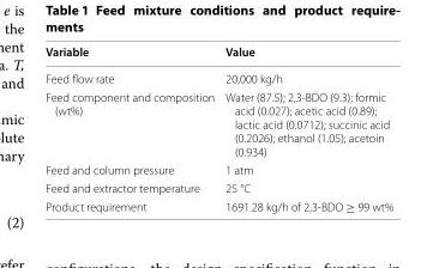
<table><thead><tr><td>Variable</td><td>Value</td></tr></thead><tbody><tr><td>Feed flow rate</td><td>20,000 kg/h</td></tr><tr><td>Feed component and composition (wt%)</td><td>Water (87.5); 2,3‑BDO (9.3); formic acid (0.027); acetic acid (0.89); lactic acid (0.0712); succinic acid (0.2026); ethanol (1.05); acetoin (0.934)</td></tr><tr><td>Feed and column pressure</td><td>1 atm</td></tr><tr><td>Feed and extractor temperature</td><td>25 °C</td></tr><tr><td>Product requirement</td><td>1691.28 kg/h of 2,3‑BDO ≥ 99 wt%</td></tr></tbody></table>